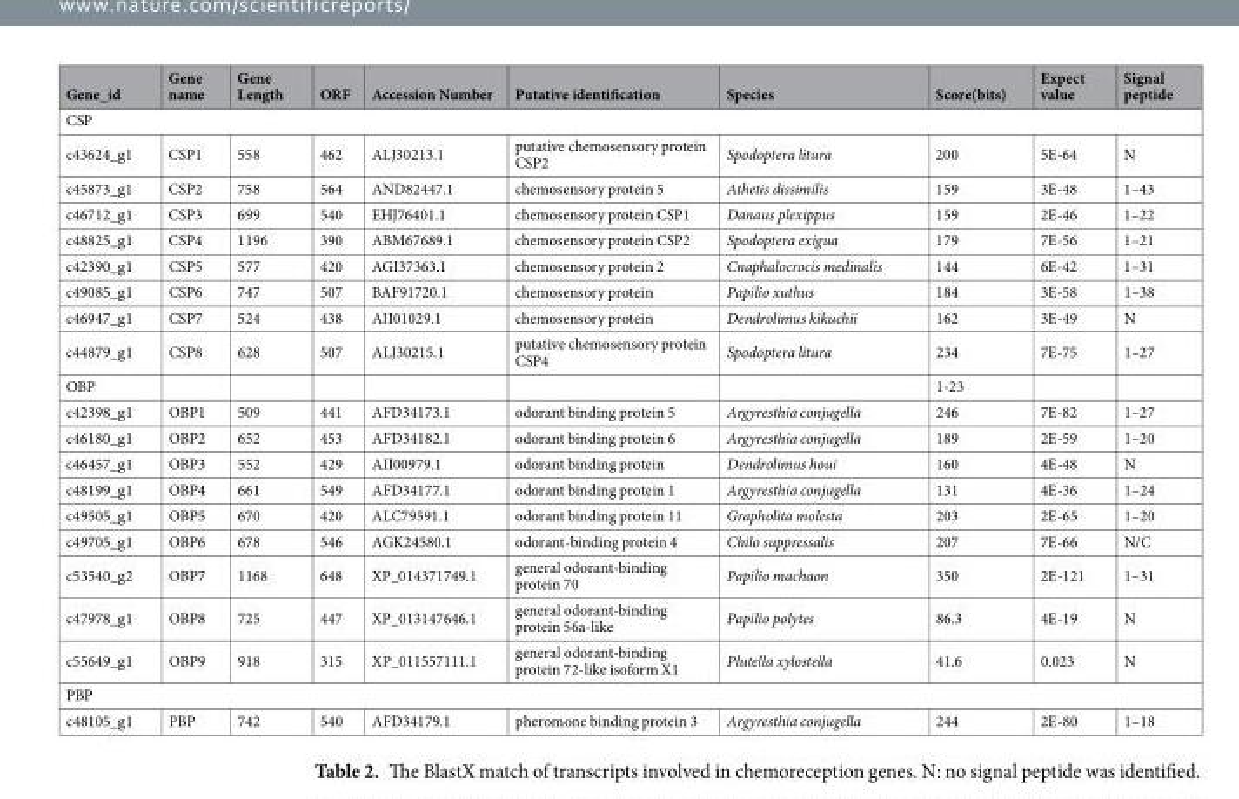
<table><thead><tr><td>Gene_id</td><td>Gene name</td><td>Gene Length</td><td>ORF</td><td>Accession Number</td><td>Putative identification</td><td>Species</td><td>Score(bits)</td><td>Expect value</td><td>Signal peptide</td></tr></thead><tbody><tr><td colspan="10">CSP</td></tr><tr><td>c43624_g1</td><td>CSP1</td><td>558</td><td>462</td><td>ALJ30213.1</td><td>putative chemosensory protein CSP2</td><td>Spodoptera litura</td><td>200</td><td>5E-64</td><td>N</td></tr><tr><td>c45873_g1</td><td>CSP2</td><td>758</td><td>564</td><td>AND82447.1</td><td>chemosensory protein 5</td><td>Athetis dissimilis</td><td>159</td><td>3E-48</td><td>1–43</td></tr><tr><td>c46712_g1</td><td>CSP3</td><td>699</td><td>540</td><td>EHJ76401.1</td><td>chemosensory protein CSP1</td><td>Danaus plexippus</td><td>159</td><td>2E-46</td><td>1–22</td></tr><tr><td>c48825_g1</td><td>CSP4</td><td>1196</td><td>390</td><td>ABM67689.1</td><td>chemosensory protein CSP2</td><td>Spodoptera exigua</td><td>179</td><td>7E-56</td><td>1–21</td></tr><tr><td>c42390_g1</td><td>CSP5</td><td>577</td><td>420</td><td>AGI37363.1</td><td>chemosensory protein 2</td><td>Cnaphalocrocis medinalis</td><td>144</td><td>6E-42</td><td>1–31</td></tr><tr><td>c49085_g1</td><td>CSP6</td><td>747</td><td>507</td><td>BAF91720.1</td><td>chemosensory protein</td><td>Papilio xuthus</td><td>184</td><td>3E-58</td><td>1–38</td></tr><tr><td>c46947_g1</td><td>CSP7</td><td>524</td><td>438</td><td>AII01029.1</td><td>chemosensory protein</td><td>Dendrolimus kikuchii</td><td>162</td><td>3E-49</td><td>N</td></tr><tr><td>c44879_g1</td><td>CSP8</td><td>628</td><td>507</td><td>ALJ30215.1</td><td>putative chemosensory protein CSP4</td><td>Spodoptera litura</td><td>234</td><td>7E-75</td><td>1–27</td></tr><tr><td>OBP</td><td></td><td></td><td></td><td></td><td></td><td></td><td>1-23</td><td></td><td></td></tr><tr><td>c42398_g1</td><td>OBP1</td><td>509</td><td>441</td><td>AFD34173.1</td><td>odorant binding protein 5</td><td>Argyresthia conjugella</td><td>246</td><td>7E-82</td><td>1–27</td></tr><tr><td>c46180_g1</td><td>OBP2</td><td>652</td><td>453</td><td>AFD34182.1</td><td>odorant binding protein 6</td><td>Argyresthia conjugella</td><td>189</td><td>2E-59</td><td>1–20</td></tr><tr><td>c46457_g1</td><td>OBP3</td><td>552</td><td>429</td><td>AII00979.1</td><td>odorant binding protein</td><td>Dendrolimus houi</td><td>160</td><td>4E-48</td><td>N</td></tr><tr><td>c48199_g1</td><td>OBP4</td><td>661</td><td>549</td><td>AFD34177.1</td><td>odorant binding protein 1</td><td>Argyresthia conjugella</td><td>131</td><td>4E-36</td><td>1–24</td></tr><tr><td>c49505_g1</td><td>OBP5</td><td>670</td><td>420</td><td>ALC79591.1</td><td>odorant binding protein 11</td><td>Grapholita molesta</td><td>203</td><td>2E-65</td><td>1–20</td></tr><tr><td>c49705_g1</td><td>OBP6</td><td>678</td><td>546</td><td>AGK24580.1</td><td>odorant-binding protein 4</td><td>Chilo suppressalis</td><td>207</td><td>7E-66</td><td>N/C</td></tr><tr><td>c53540_g2</td><td>OBP7</td><td>1168</td><td>648</td><td>XP_014371749.1</td><td>general odorant-binding protein 70</td><td>Papilio machaon</td><td>350</td><td>2E-121</td><td>1–31</td></tr><tr><td>c47978_g1</td><td>OBP8</td><td>725</td><td>447</td><td>XP_013147646.1</td><td>general odorant-binding protein 56a-like</td><td>Papilio polytes</td><td>86.3</td><td>4E-19</td><td>N</td></tr><tr><td>c55649_g1</td><td>OBP9</td><td>918</td><td>315</td><td>XP_011557111.1</td><td>general odorant-binding protein 72-like isoform X1</td><td>Plutella xylostella</td><td>41.6</td><td>0.023</td><td>N</td></tr><tr><td colspan="10">PBP</td></tr><tr><td>c48105_g1</td><td>PBP</td><td>742</td><td>540</td><td>AFD34179.1</td><td>pheromone binding protein 3</td><td>Argyresthia conjugella</td><td>244</td><td>2E-80</td><td>1–18</td></tr></tbody></table>